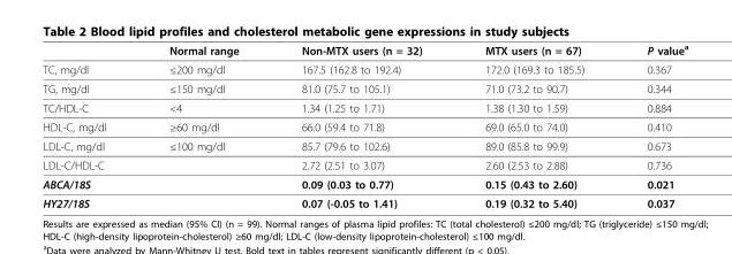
<table><thead><tr><td></td><td>Normal range</td><td>Non-MTX users (n = 32)</td><td>MTX users (n = 67)</td><td>P value<sup>a</sup></td></tr></thead><tbody><tr><td>TC, mg/dl</td><td>≤200 mg/dl</td><td>167.5 (162.8 to 192.4)</td><td>172.0 (169.3 to 185.5)</td><td>0.367</td></tr><tr><td>TG, mg/dl</td><td>≤150 mg/dl</td><td>81.0 (75.7 to 105.1)</td><td>71.0 (73.2 to 90.7)</td><td>0.344</td></tr><tr><td>TC/HDL-C</td><td>&lt;4</td><td>1.34 (1.25 to 1.71)</td><td>1.38 (1.30 to 1.59)</td><td>0.884</td></tr><tr><td>HDL-C, mg/dl</td><td>≥60 mg/dl</td><td>66.0 (59.4 to 71.8)</td><td>69.0 (65.0 to 74.0)</td><td>0.410</td></tr><tr><td>LDL-C, mg/dl</td><td>≤100 mg/dl</td><td>85.7 (79.6 to 102.6)</td><td>89.0 (85.8 to 99.9)</td><td>0.673</td></tr><tr><td>LDL-C/HDL-C</td><td></td><td>2.72 (2.51 to 3.07)</td><td>2.60 (2.53 to 2.88)</td><td>0.736</td></tr><tr><td>ABCA/18S</td><td></td><td>0.09 (0.03 to 0.77)</td><td>0.15 (0.43 to 2.60)</td><td>0.021</td></tr><tr><td>HY27/18S</td><td></td><td>0.07 (-0.05 to 1.41)</td><td>0.19 (0.32 to 5.40)</td><td>0.037</td></tr></tbody></table>